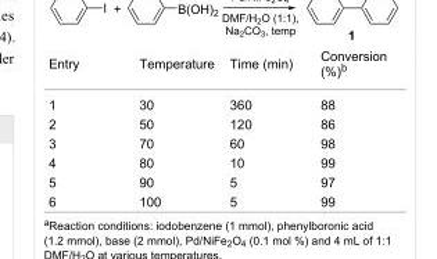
<table><tbody><tr><td>Entry</td><td>Temperature</td><td>Time (min)</td><td>Conversion (%)<sup>b</sup></td></tr><tr><td>1</td><td>30</td><td>360</td><td>88</td></tr><tr><td>2</td><td>50</td><td>120</td><td>86</td></tr><tr><td>3</td><td>70</td><td>60</td><td>98</td></tr><tr><td>4</td><td>80</td><td>10</td><td>99</td></tr><tr><td>5</td><td>90</td><td>5</td><td>97</td></tr><tr><td>6</td><td>100</td><td>5</td><td>99</td></tr></tbody></table>